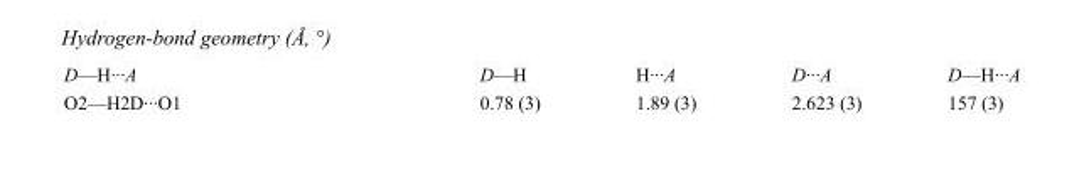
<table><tbody><tr><td>D—H···A</td><td>D—H</td><td>H···A</td><td>D···A</td><td>D—H···A</td></tr><tr><td>O2—H2D···O1</td><td>0.78 (3)</td><td>1.89 (3)</td><td>2.623 (3)</td><td>157 (3)</td></tr></tbody></table>